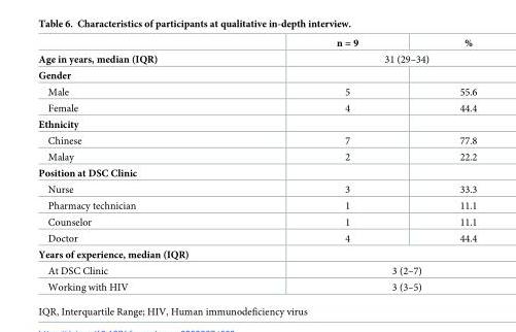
<table><thead><tr><td></td><td>n = 9</td><td>%</td></tr></thead><tbody><tr><td>Age in years, median (IQR)</td><td colspan="2">31 (29–34)</td></tr><tr><td colspan="3">Gender</td></tr><tr><td>Male</td><td>5</td><td>55.6</td></tr><tr><td>Female</td><td>4</td><td>44.4</td></tr><tr><td colspan="3">Ethnicity</td></tr><tr><td>Chinese</td><td>7</td><td>77.8</td></tr><tr><td>Malay</td><td>2</td><td>22.2</td></tr><tr><td colspan="3">Position at DSC Clinic</td></tr><tr><td>Nurse</td><td>3</td><td>33.3</td></tr><tr><td>Pharmacy technician</td><td>1</td><td>11.1</td></tr><tr><td>Counselor</td><td>1</td><td>11.1</td></tr><tr><td>Doctor</td><td>4</td><td>44.4</td></tr><tr><td colspan="3">Years of experience, median (IQR)</td></tr><tr><td>At DSC Clinic</td><td colspan="2">3 (2–7)</td></tr><tr><td>Working with HIV</td><td colspan="2">3 (3–5)</td></tr></tbody></table>